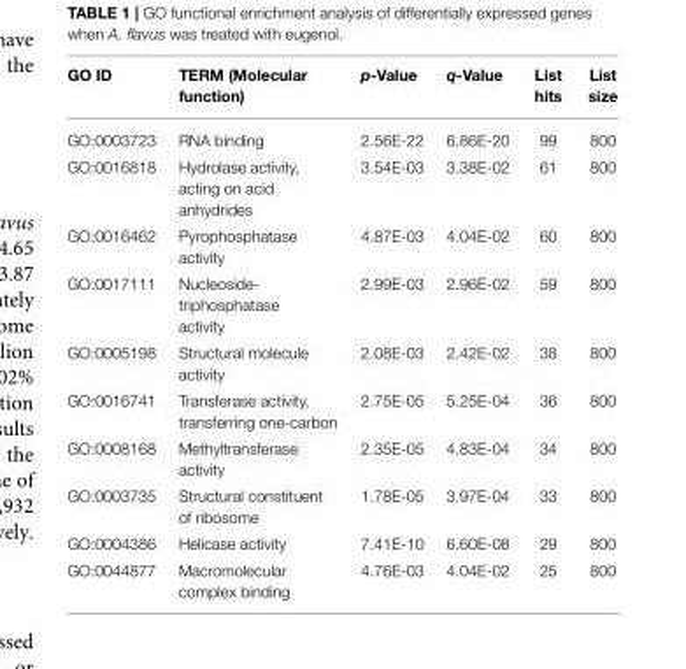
<table><thead><tr><td>GO ID</td><td>TERM (Molecular function)</td><td>p-Value</td><td>q-Value</td><td>List hits</td><td>List size</td></tr></thead><tbody><tr><td>GO:0003723</td><td>RNA binding</td><td>2.56E-22</td><td>6.86E-20</td><td>99</td><td>800</td></tr><tr><td>GO:0016818</td><td>Hydrolase activity, acting on acid anhydrides</td><td>3.54E-03</td><td>3.38E-02</td><td>61</td><td>800</td></tr><tr><td>GO:0016462</td><td>Pyrophosphatase activity</td><td>4.87E-03</td><td>4.04E-02</td><td>60</td><td>800</td></tr><tr><td>GO:0017111</td><td>Nucleoside- triphosphatase activity</td><td>2.99E-03</td><td>2.96E-02</td><td>59</td><td>800</td></tr><tr><td>GO:0005198</td><td>Structural molecule activity</td><td>2.08E-03</td><td>2.42E-02</td><td>38</td><td>800</td></tr><tr><td>GO:0016741</td><td>Transferase activity, transferring one-carbon</td><td>2.75E-05</td><td>5.25E-04</td><td>36</td><td>800</td></tr><tr><td>GO:0008168</td><td>Methyltransferase activity</td><td>2.35E-05</td><td>4.83E-04</td><td>34</td><td>800</td></tr><tr><td>GO:0003735</td><td>Structural constituent of ribosome</td><td>1.78E-05</td><td>3.97E-04</td><td>33</td><td>800</td></tr><tr><td>GO:0004386</td><td>Helicase activity</td><td>7.41E-10</td><td>6.60E-08</td><td>29</td><td>800</td></tr><tr><td>GO:0044877</td><td>Macromolecular complex binding</td><td>4.76E-03</td><td>4.04E-02</td><td>25</td><td>800</td></tr></tbody></table>